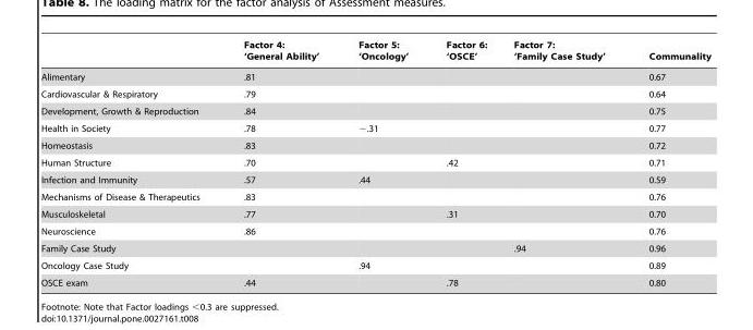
<table><thead><tr><td></td><td>Factor 4: ‘General Ability’</td><td>Factor 5: ‘Oncology’</td><td>Factor 6: ‘OSCE’</td><td>Factor 7: ‘Family Case Study’</td><td>Communality</td></tr></thead><tbody><tr><td>Alimentary</td><td>.81</td><td></td><td></td><td></td><td>0.67</td></tr><tr><td>Cardiovascular &amp; Respiratory</td><td>.79</td><td></td><td></td><td></td><td>0.64</td></tr><tr><td>Development, Growth &amp; Reproduction</td><td>.84</td><td></td><td></td><td></td><td>0.75</td></tr><tr><td>Health in Society</td><td>.78</td><td>−.31</td><td></td><td></td><td>0.77</td></tr><tr><td>Homeostasis</td><td>.83</td><td></td><td></td><td></td><td>0.72</td></tr><tr><td>Human Structure</td><td>.70</td><td></td><td>.42</td><td></td><td>0.71</td></tr><tr><td>Infection and Immunity</td><td>.57</td><td>.44</td><td></td><td></td><td>0.59</td></tr><tr><td>Mechanisms of Disease &amp; Therapeutics</td><td>.83</td><td></td><td></td><td></td><td>0.76</td></tr><tr><td>Musculoskeletal</td><td>.77</td><td></td><td>.31</td><td></td><td>0.70</td></tr><tr><td>Neuroscience</td><td>.86</td><td></td><td></td><td></td><td>0.76</td></tr><tr><td>Family Case Study</td><td></td><td></td><td></td><td>.94</td><td>0.96</td></tr><tr><td>Oncology Case Study</td><td></td><td>.94</td><td></td><td></td><td>0.89</td></tr><tr><td>OSCE exam</td><td>.44</td><td></td><td>.78</td><td></td><td>0.80</td></tr></tbody></table>